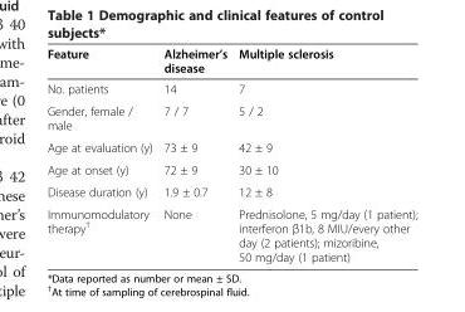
<table><thead><tr><td>Feature</td><td>Alzheimer’s disease</td><td>Multiple sclerosis</td></tr></thead><tbody><tr><td>No. patients</td><td>14</td><td>7</td></tr><tr><td>Gender, female / male</td><td>7 / 7</td><td>5 / 2</td></tr><tr><td>Age at evaluation (y)</td><td>73 ± 9</td><td>42 ± 9</td></tr><tr><td>Age at onset (y)</td><td>72 ± 9</td><td>30 ± 10</td></tr><tr><td>Disease duration (y)</td><td>1.9 ± 0.7</td><td>12 ± 8</td></tr><tr><td>Immunomodulatory therapy<sup>†</sup></td><td>None</td><td>Prednisolone, 5 mg/day (1 patient); interferon β1b, 8 MIU/every other day (2 patients); mizoribine, 50 mg/day (1 patient)</td></tr></tbody></table>